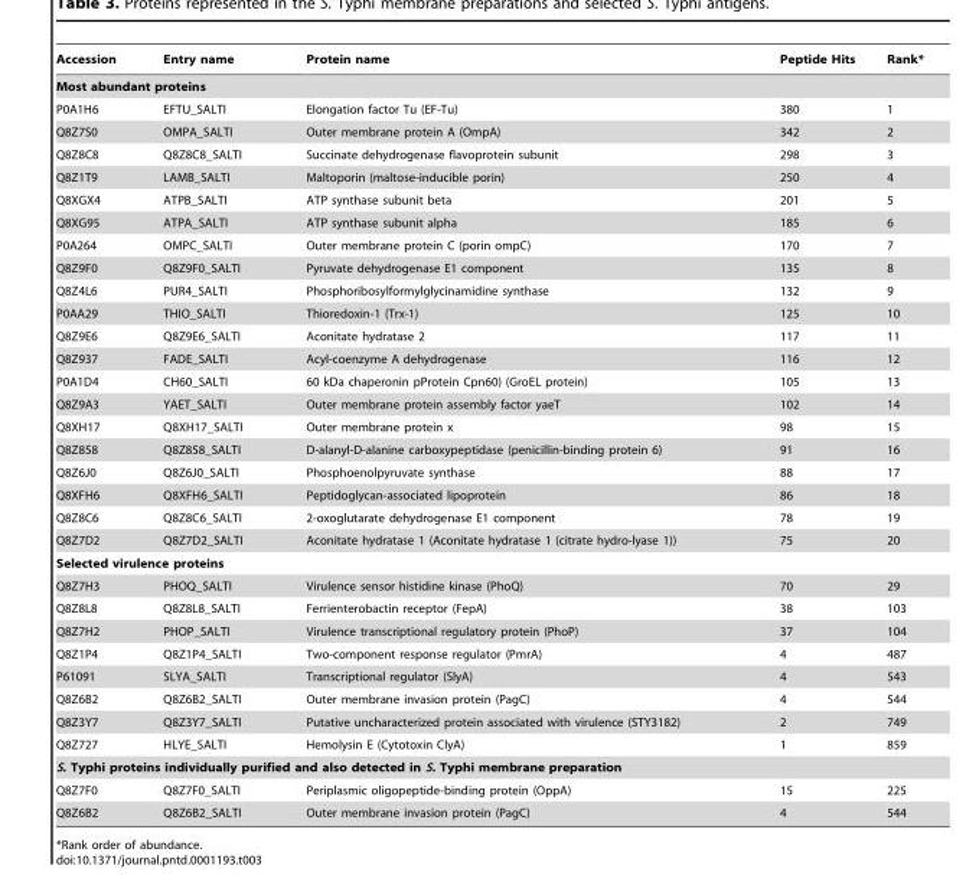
<table><thead><tr><td>Accession</td><td>Entry name</td><td>Protein name</td><td>Peptide Hits</td><td>Rank*</td></tr></thead><tbody><tr><td colspan="5">Most abundant proteins</td></tr><tr><td>P0A1H6</td><td>EFTU_SALTI</td><td>Elongation factor Tu (EF-Tu)</td><td>380</td><td>1</td></tr><tr><td>Q8Z7S0</td><td>OMPA_SALTI</td><td>Outer membrane protein A (OmpA)</td><td>342</td><td>2</td></tr><tr><td>Q8Z8C8</td><td>Q8Z8C8_SALTI</td><td>Succinate dehydrogenase flavoprotein subunit</td><td>298</td><td>3</td></tr><tr><td>Q8Z1T9</td><td>LAMB_SALTI</td><td>Maltoporin (maltose-inducible porin)</td><td>250</td><td>4</td></tr><tr><td>Q8XGX4</td><td>ATPB_SALTI</td><td>ATP synthase subunit beta</td><td>201</td><td>5</td></tr><tr><td>Q8XG95</td><td>ATPA_SALTI</td><td>ATP synthase subunit alpha</td><td>185</td><td>6</td></tr><tr><td>P0A264</td><td>OMPC_SALTI</td><td>Outer membrane protein C (porin ompC)</td><td>170</td><td>7</td></tr><tr><td>Q8Z9F0</td><td>Q8Z9F0_SALTI</td><td>Pyruvate dehydrogenase E1 component</td><td>135</td><td>8</td></tr><tr><td>Q8Z4L6</td><td>PUR4_SALTI</td><td>Phosphoribosylformylglycinamidine synthase</td><td>132</td><td>9</td></tr><tr><td>P0AA29</td><td>THIO_SALTI</td><td>Thioredoxin-1 (Trx-1)</td><td>125</td><td>10</td></tr><tr><td>Q8Z9E6</td><td>Q8Z9E6_SALTI</td><td>Aconitate hydratase 2</td><td>117</td><td>11</td></tr><tr><td>Q8Z937</td><td>FADE_SALTI</td><td>Acyl-coenzyme A dehydrogenase</td><td>116</td><td>12</td></tr><tr><td>P0A1D4</td><td>CH60_SALTI</td><td>60 kDa chaperonin pProtein Cpn60) (GroEL protein)</td><td>105</td><td>13</td></tr><tr><td>Q8Z9A3</td><td>YAET_SALTI</td><td>Outer membrane protein assembly factor yaeT</td><td>102</td><td>14</td></tr><tr><td>Q8XH17</td><td>Q8XH17_SALTI</td><td>Outer membrane protein x</td><td>98</td><td>15</td></tr><tr><td>Q8Z858</td><td>Q8Z858_SALTI</td><td>D-alanyl-D-alanine carboxypeptidase (penicillin-binding protein 6)</td><td>91</td><td>16</td></tr><tr><td>Q8Z6J0</td><td>Q8Z6J0_SALTI</td><td>Phosphoenolpyruvate synthase</td><td>88</td><td>17</td></tr><tr><td>Q8XFH6</td><td>Q8XFH6_SALTI</td><td>Peptidoglycan-associated lipoprotein</td><td>86</td><td>18</td></tr><tr><td>Q8Z8C6</td><td>Q8Z8C6_SALTI</td><td>2-oxoglutarate dehydrogenase E1 component</td><td>78</td><td>19</td></tr><tr><td>Q8Z7D2</td><td>Q8Z7D2_SALTI</td><td>Aconitate hydratase 1 (Aconitate hydratase 1 (citrate hydro-lyase 1))</td><td>75</td><td>20</td></tr><tr><td colspan="5">Selected virulence proteins</td></tr><tr><td>Q8Z7H3</td><td>PHOQ_SALTI</td><td>Virulence sensor histidine kinase (PhoQ)</td><td>70</td><td>29</td></tr><tr><td>Q8Z8L8</td><td>Q8Z8L8_SALTI</td><td>Ferrienterobactin receptor (FepA)</td><td>38</td><td>103</td></tr><tr><td>Q8Z7H2</td><td>PHOP_SALTI</td><td>Virulence transcriptional regulatory protein (PhoP)</td><td>37</td><td>104</td></tr><tr><td>Q8Z1P4</td><td>Q8Z1P4_SALTI</td><td>Two-component response regulator (PmrA)</td><td>4</td><td>487</td></tr><tr><td>P61091</td><td>SLYA_SALTI</td><td>Transcriptional regulator (SlyA)</td><td>4</td><td>543</td></tr><tr><td>Q8Z6B2</td><td>Q8Z6B2_SALTI</td><td>Outer membrane invasion protein (PagC)</td><td>4</td><td>544</td></tr><tr><td>Q8Z3Y7</td><td>Q8Z3Y7_SALTI</td><td>Putative uncharacterized protein associated with virulence (STY3182)</td><td>2</td><td>749</td></tr><tr><td>Q8Z727</td><td>HLYE_SALTI</td><td>Hemolysin E (Cytotoxin ClyA)</td><td>1</td><td>859</td></tr><tr><td colspan="5">S. Typhi proteins individually purified and also detected in S. Typhi membrane preparation</td></tr><tr><td>Q8Z7F0</td><td>Q8Z7F0_SALTI</td><td>Periplasmic oligopeptide-binding protein (OppA)</td><td>15</td><td>225</td></tr><tr><td>Q8Z6B2</td><td>Q8Z6B2_SALTI</td><td>Outer membrane invasion protein (PagC)</td><td>4</td><td>544</td></tr></tbody></table>